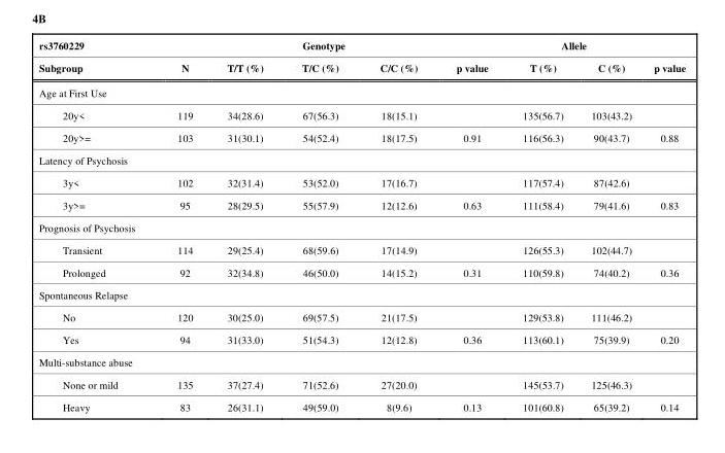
<table><thead><tr><td rowspan="2">rs3760229 Subgroup</td><td rowspan="2">N</td><td colspan="3">Genotype</td><td rowspan="2">p value</td><td colspan="2">Allele</td><td rowspan="2">p value</td></tr><tr><td>T/T (%)</td><td>T/C (%)</td><td>C/C (%)</td><td>T (%)</td><td>C (%)</td></tr></thead><tbody><tr><td colspan="9">Age at First Use</td></tr><tr><td>20y&lt;</td><td>119</td><td>34(28.6)</td><td>67(56.3)</td><td>18(15.1)</td><td></td><td>135(56.7)</td><td>103(43.2)</td><td></td></tr><tr><td>20y&gt;=</td><td>103</td><td>31(30.1)</td><td>54(52.4)</td><td>18(17.5)</td><td>0.91</td><td>116(56.3)</td><td>90(43.7)</td><td>0.88</td></tr><tr><td colspan="9">Latency of Psychosis</td></tr><tr><td>3y&lt;</td><td>102</td><td>32(31.4)</td><td>53(52.0)</td><td>17(16.7)</td><td></td><td>117(57.4)</td><td>87(42.6)</td><td></td></tr><tr><td>3y&gt;=</td><td>95</td><td>28(29.5)</td><td>55(57.9)</td><td>12(12.6)</td><td>0.63</td><td>111(58.4)</td><td>79(41.6)</td><td>0.83</td></tr><tr><td colspan="9">Prognosis of Psychosis</td></tr><tr><td>Transient</td><td>114</td><td>29(25.4)</td><td>68(59.6)</td><td>17(14.9)</td><td></td><td>126(55.3)</td><td>102(44.7)</td><td></td></tr><tr><td>Prolonged</td><td>92</td><td>32(34.8)</td><td>46(50.0)</td><td>14(15.2)</td><td>0.31</td><td>110(59.8)</td><td>74(40.2)</td><td>0.36</td></tr><tr><td colspan="9">Spontaneous Relapse</td></tr><tr><td>No</td><td>120</td><td>30(25.0)</td><td>69(57.5)</td><td>21(17.5)</td><td></td><td>129(53.8)</td><td>111(46.2)</td><td></td></tr><tr><td>Yes</td><td>94</td><td>31(33.0)</td><td>51(54.3)</td><td>12(12.8)</td><td>0.36</td><td>113(60.1)</td><td>75(39.9)</td><td>0.20</td></tr><tr><td colspan="9">Multi-substance abuse</td></tr><tr><td>None or mild</td><td>135</td><td>37(27.4)</td><td>71(52.6)</td><td>27(20.0)</td><td></td><td>145(53.7)</td><td>125(46.3)</td><td></td></tr><tr><td>Heavy</td><td>83</td><td>26(31.1)</td><td>49(59.0)</td><td>8(9.6)</td><td>0.13</td><td>101(60.8)</td><td>65(39.2)</td><td>0.14</td></tr></tbody></table>